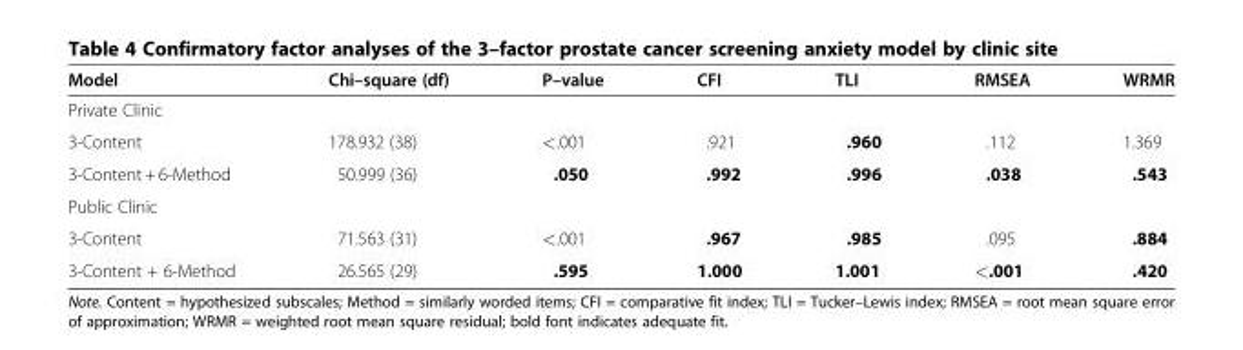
<table><thead><tr><td>Model</td><td>Chi–square (df)</td><td>P–value</td><td>CFI</td><td>TLI</td><td>RMSEA</td><td>WRMR</td></tr></thead><tbody><tr><td colspan="7">Private Clinic</td></tr><tr><td>3-Content</td><td>178.932 (38)</td><td>&lt;.001</td><td>.921</td><td>.960</td><td>.112</td><td>1.369</td></tr><tr><td>3-Content + 6-Method</td><td>50.999 (36)</td><td>.050</td><td>.992</td><td>.996</td><td>.038</td><td>.543</td></tr><tr><td colspan="7">Public Clinic</td></tr><tr><td>3-Content</td><td>71.563 (31)</td><td>&lt;.001</td><td>.967</td><td>.985</td><td>.095</td><td>.884</td></tr><tr><td>3-Content + 6-Method</td><td>26.565 (29)</td><td>.595</td><td>1.000</td><td>1.001</td><td>&lt;.001</td><td>.420</td></tr></tbody></table>